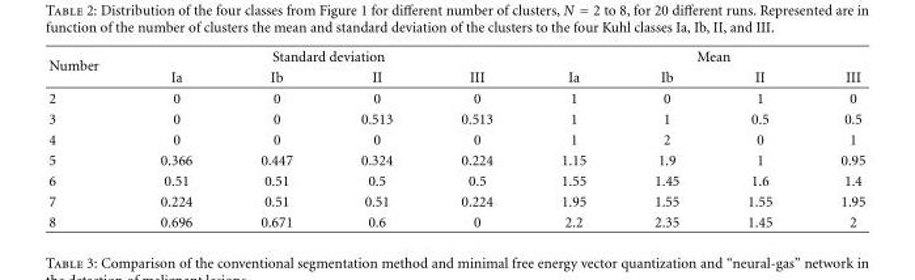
<table><thead><tr><td rowspan="2">Number</td><td colspan="4">Standard deviation</td><td colspan="4">Mean</td></tr><tr><td>Ia</td><td>Ib</td><td>II</td><td>III</td><td>Ia</td><td>Ib</td><td>II</td><td>III</td></tr></thead><tbody><tr><td>2</td><td>0</td><td>0</td><td>0</td><td>0</td><td>1</td><td>0</td><td>1</td><td>0</td></tr><tr><td>3</td><td>0</td><td>0</td><td>0.513</td><td>0.513</td><td>1</td><td>1</td><td>0.5</td><td>0.5</td></tr><tr><td>4</td><td>0</td><td>0</td><td>0</td><td>0</td><td>1</td><td>2</td><td>0</td><td>1</td></tr><tr><td>5</td><td>0.366</td><td>0.447</td><td>0.324</td><td>0.224</td><td>1.15</td><td>1.9</td><td>1</td><td>0.95</td></tr><tr><td>6</td><td>0.51</td><td>0.51</td><td>0.5</td><td>0.5</td><td>1.55</td><td>1.45</td><td>1.6</td><td>1.4</td></tr><tr><td>7</td><td>0.224</td><td>0.51</td><td>0.51</td><td>0.224</td><td>1.95</td><td>1.55</td><td>1.55</td><td>1.95</td></tr><tr><td>8</td><td>0.696</td><td>0.671</td><td>0.6</td><td>0</td><td>2.2</td><td>2.35</td><td>1.45</td><td>2</td></tr></tbody></table>